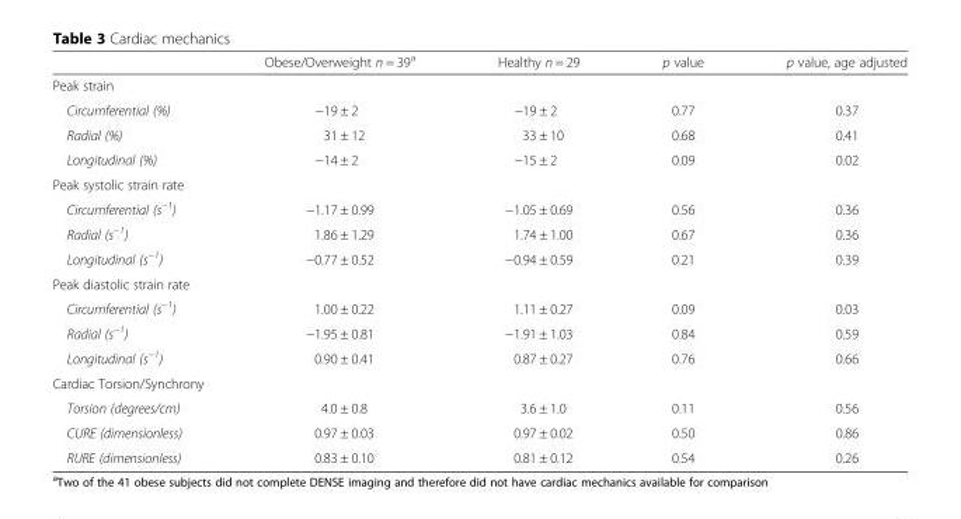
<table><thead><tr><td></td><td>Obese/Overweight n = 39<sup>a</sup></td><td>Healthy n = 29</td><td>p value</td><td>p value, age adjusted</td></tr></thead><tbody><tr><td colspan="5">Peak strain</td></tr><tr><td>Circumferential (%)</td><td>−19 ± 2</td><td>−19 ± 2</td><td>0.77</td><td>0.37</td></tr><tr><td>Radial (%)</td><td>31 ± 12</td><td>33 ± 10</td><td>0.68</td><td>0.41</td></tr><tr><td>Longitudinal (%)</td><td>−14 ± 2</td><td>−15 ± 2</td><td>0.09</td><td>0.02</td></tr><tr><td colspan="5">Peak systolic strain rate</td></tr><tr><td>Circumferential (s<sup>−1</sup>)</td><td>−1.17 ± 0.99</td><td>−1.05 ± 0.69</td><td>0.56</td><td>0.36</td></tr><tr><td>Radial (s<sup>−1</sup>)</td><td>1.86 ± 1.29</td><td>1.74 ± 1.00</td><td>0.67</td><td>0.36</td></tr><tr><td>Longitudinal (s<sup>−1</sup>)</td><td>−0.77 ± 0.52</td><td>−0.94 ± 0.59</td><td>0.21</td><td>0.39</td></tr><tr><td colspan="5">Peak diastolic strain rate</td></tr><tr><td>Circumferential (s<sup>−1</sup>)</td><td>1.00 ± 0.22</td><td>1.11 ± 0.27</td><td>0.09</td><td>0.03</td></tr><tr><td>Radial (s<sup>−1</sup>)</td><td>−1.95 ± 0.81</td><td>−1.91 ± 1.03</td><td>0.84</td><td>0.59</td></tr><tr><td>Longitudinal (s<sup>−1</sup>)</td><td>0.90 ± 0.41</td><td>0.87 ± 0.27</td><td>0.76</td><td>0.66</td></tr><tr><td colspan="5">Cardiac Torsion/Synchrony</td></tr><tr><td>Torsion (degrees/cm)</td><td>4.0 ± 0.8</td><td>3.6 ± 1.0</td><td>0.11</td><td>0.56</td></tr><tr><td>CURE (dimensionless)</td><td>0.97 ± 0.03</td><td>0.97 ± 0.02</td><td>0.50</td><td>0.86</td></tr><tr><td>RURE (dimensionless)</td><td>0.83 ± 0.10</td><td>0.81 ± 0.12</td><td>0.54</td><td>0.26</td></tr></tbody></table>